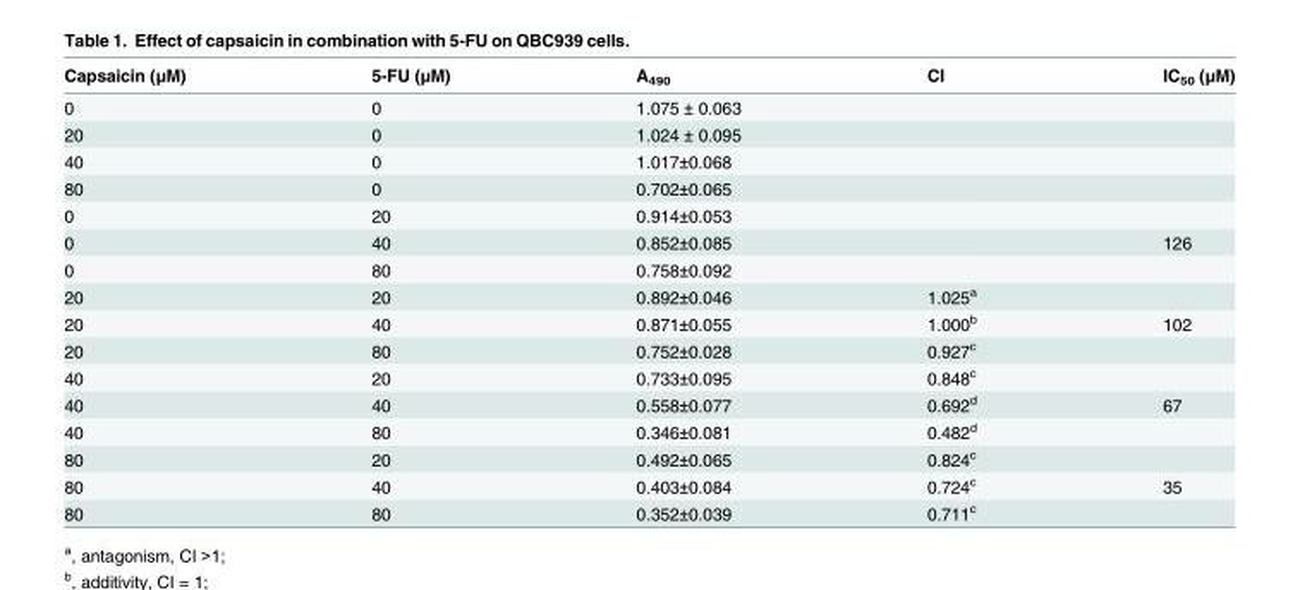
<table><thead><tr><td>Capsaicin (μM)</td><td>5-FU (μM)</td><td>A<sub>490</sub></td><td>CI</td><td>IC<sub>50</sub> (μM)</td></tr></thead><tbody><tr><td>0</td><td>0</td><td>1.075 ± 0.063</td><td></td><td></td></tr><tr><td>20</td><td>0</td><td>1.024 ± 0.095</td><td></td><td></td></tr><tr><td>40</td><td>0</td><td>1.017±0.068</td><td></td><td></td></tr><tr><td>80</td><td>0</td><td>0.702±0.065</td><td></td><td></td></tr><tr><td>0</td><td>20</td><td>0.914±0.053</td><td></td><td></td></tr><tr><td>0</td><td>40</td><td>0.852±0.085</td><td></td><td>126</td></tr><tr><td>0</td><td>80</td><td>0.758±0.092</td><td></td><td></td></tr><tr><td>20</td><td>20</td><td>0.892±0.046</td><td>1.025<sup>a</sup></td><td></td></tr><tr><td>20</td><td>40</td><td>0.871±0.055</td><td>1.000<sup>b</sup></td><td>102</td></tr><tr><td>20</td><td>80</td><td>0.752±0.028</td><td>0.927<sup>c</sup></td><td></td></tr><tr><td>40</td><td>20</td><td>0.733±0.095</td><td>0.848<sup>c</sup></td><td></td></tr><tr><td>40</td><td>40</td><td>0.558±0.077</td><td>0.692<sup>d</sup></td><td>67</td></tr><tr><td>40</td><td>80</td><td>0.346±0.081</td><td>0.482<sup>d</sup></td><td></td></tr><tr><td>80</td><td>20</td><td>0.492±0.065</td><td>0.824<sup>c</sup></td><td></td></tr><tr><td>80</td><td>40</td><td>0.403±0.084</td><td>0.724<sup>c</sup></td><td>35</td></tr><tr><td>80</td><td>80</td><td>0.352±0.039</td><td>0.711<sup>c</sup></td><td></td></tr></tbody></table>